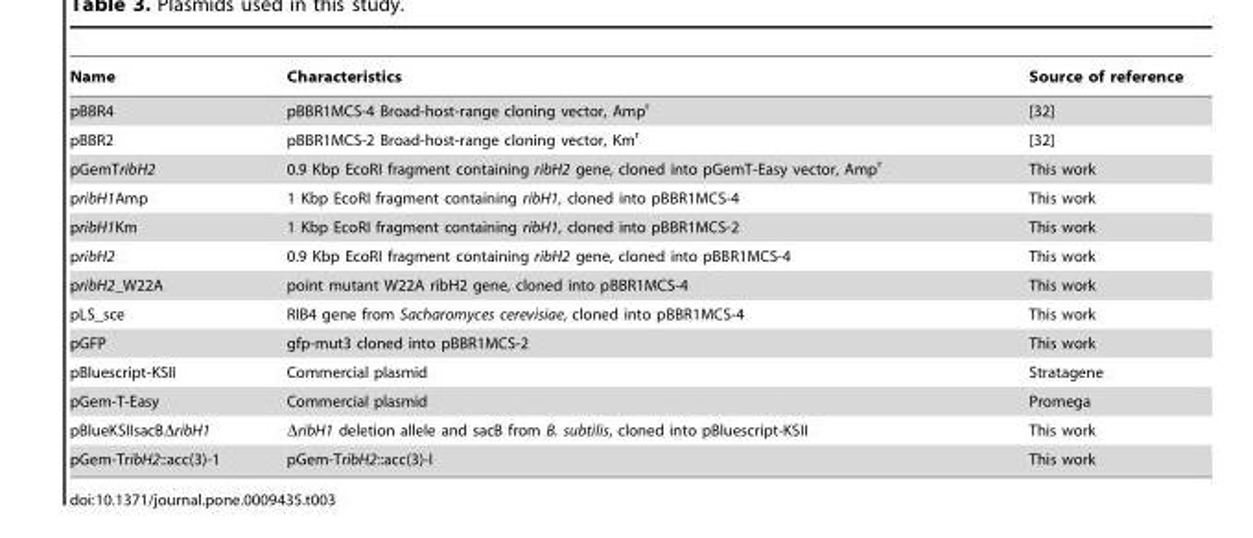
<table><thead><tr><td>Name</td><td>Characteristics</td><td>Source of reference</td></tr></thead><tbody><tr><td>pBBR4</td><td>pBBR1MCS-4 Broad-host-range cloning vector, Amp<sup>r</sup></td><td>[32]</td></tr><tr><td>pBBR2</td><td>pBBR1MCS-2 Broad-host-range cloning vector, Km<sup>r</sup></td><td>[32]</td></tr><tr><td>pGemTribH2</td><td>0.9 Kbp EcoRI fragment containing ribH2 gene, cloned into pGemT-Easy vector, Amp<sup>r</sup></td><td>This work</td></tr><tr><td>pribH1Amp</td><td>1 Kbp EcoRI fragment containing ribH1, cloned into pBBR1MCS-4</td><td>This work</td></tr><tr><td>pribH1Km</td><td>1 Kbp EcoRI fragment containing ribH1, cloned into pBBR1MCS-2</td><td>This work</td></tr><tr><td>pribH2</td><td>0.9 Kbp EcoRI fragment containing ribH2 gene, cloned into pBBR1MCS-4</td><td>This work</td></tr><tr><td>pribH2_W22A</td><td>point mutant W22A ribH2 gene, cloned into pBBR1MCS-4</td><td>This work</td></tr><tr><td>pLS_sce</td><td>RIB4 gene from Sacharomyces cerevisiae, cloned into pBBR1MCS-4</td><td>This work</td></tr><tr><td>pGFP</td><td>gfp-mut3 cloned into pBBR1MCS-2</td><td>This work</td></tr><tr><td>pBluescript-KSII</td><td>Commercial plasmid</td><td>Stratagene</td></tr><tr><td>pGem-T-Easy</td><td>Commercial plasmid</td><td>Promega</td></tr><tr><td>pBlueKSIIsacBΔribH1</td><td>ΔribH1 deletion allele and sacB from B. subtilis, cloned into pBluescript-KSII</td><td>This work</td></tr><tr><td>pGem-TribH2::acc(3)-1</td><td>pGem-TribH2::acc(3)-I</td><td>This work</td></tr></tbody></table>